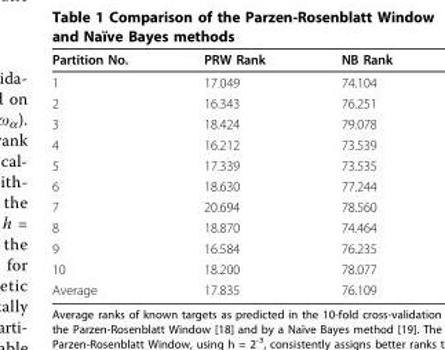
<table><thead><tr><td>Partition No.</td><td>PRW Rank</td><td>NB Rank</td></tr></thead><tbody><tr><td>1</td><td>17.049</td><td>74.104</td></tr><tr><td>2</td><td>16.343</td><td>76.251</td></tr><tr><td>3</td><td>18.424</td><td>79.078</td></tr><tr><td>4</td><td>16.212</td><td>73.539</td></tr><tr><td>5</td><td>17.339</td><td>73.535</td></tr><tr><td>6</td><td>18.630</td><td>77.244</td></tr><tr><td>7</td><td>20.694</td><td>78.560</td></tr><tr><td>8</td><td>18.870</td><td>74.464</td></tr><tr><td>9</td><td>16.584</td><td>76.235</td></tr><tr><td>10</td><td>18.200</td><td>78.077</td></tr><tr><td>Average</td><td>17.835</td><td>76.109</td></tr></tbody></table>